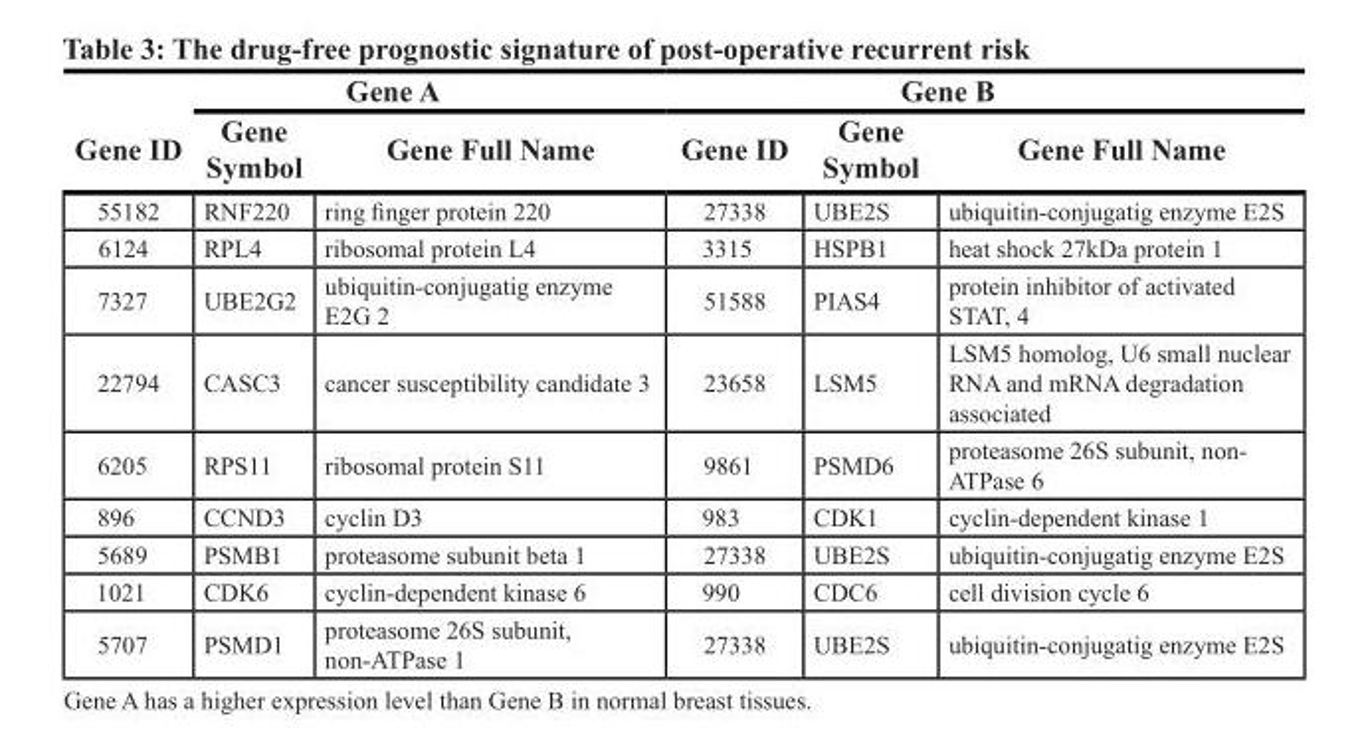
<table><thead><tr><td rowspan="2">Gene ID</td><td colspan="2">Gene A</td><td rowspan="2">Gene ID</td><td colspan="2">Gene B</td></tr><tr><td>Gene Symbol</td><td>Gene Full Name</td><td>Gene Symbol</td><td>Gene Full Name</td></tr></thead><tbody><tr><td>55182</td><td>RNF220</td><td>ring finger protein 220</td><td>27338</td><td>UBE2S</td><td>ubiquitin-conjugatig enzyme E2S</td></tr><tr><td>6124</td><td>RPL4</td><td>ribosomal protein L4</td><td>3315</td><td>HSPB1</td><td>heat shock 27kDa protein 1</td></tr><tr><td>7327</td><td>UBE2G2</td><td>ubiquitin-conjugatig enzyme E2G 2</td><td>51588</td><td>PIAS4</td><td>protein inhibitor of activated STAT, 4</td></tr><tr><td>22794</td><td>CASC3</td><td>cancer susceptibility candidate 3</td><td>23658</td><td>LSM5</td><td>LSM5 homolog, U6 small nuclear RNA and mRNA degradation associated</td></tr><tr><td>6205</td><td>RPS11</td><td>ribosomal protein S11</td><td>9861</td><td>PSMD6</td><td>proteasome 26S subunit, non- ATPase 6</td></tr><tr><td>896</td><td>CCND3</td><td>cyclin D3</td><td>983</td><td>CDK1</td><td>cyclin-dependent kinase 1</td></tr><tr><td>5689</td><td>PSMB1</td><td>proteasome subunit beta 1</td><td>27338</td><td>UBE2S</td><td>ubiquitin-conjugatig enzyme E2S</td></tr><tr><td>1021</td><td>CDK6</td><td>cyclin-dependent kinase 6</td><td>990</td><td>CDC6</td><td>cell division cycle 6</td></tr><tr><td>5707</td><td>PSMD1</td><td>proteasome 26S subunit, non-ATPase 1</td><td>27338</td><td>UBE2S</td><td>ubiquitin-conjugatig enzyme E2S</td></tr></tbody></table>